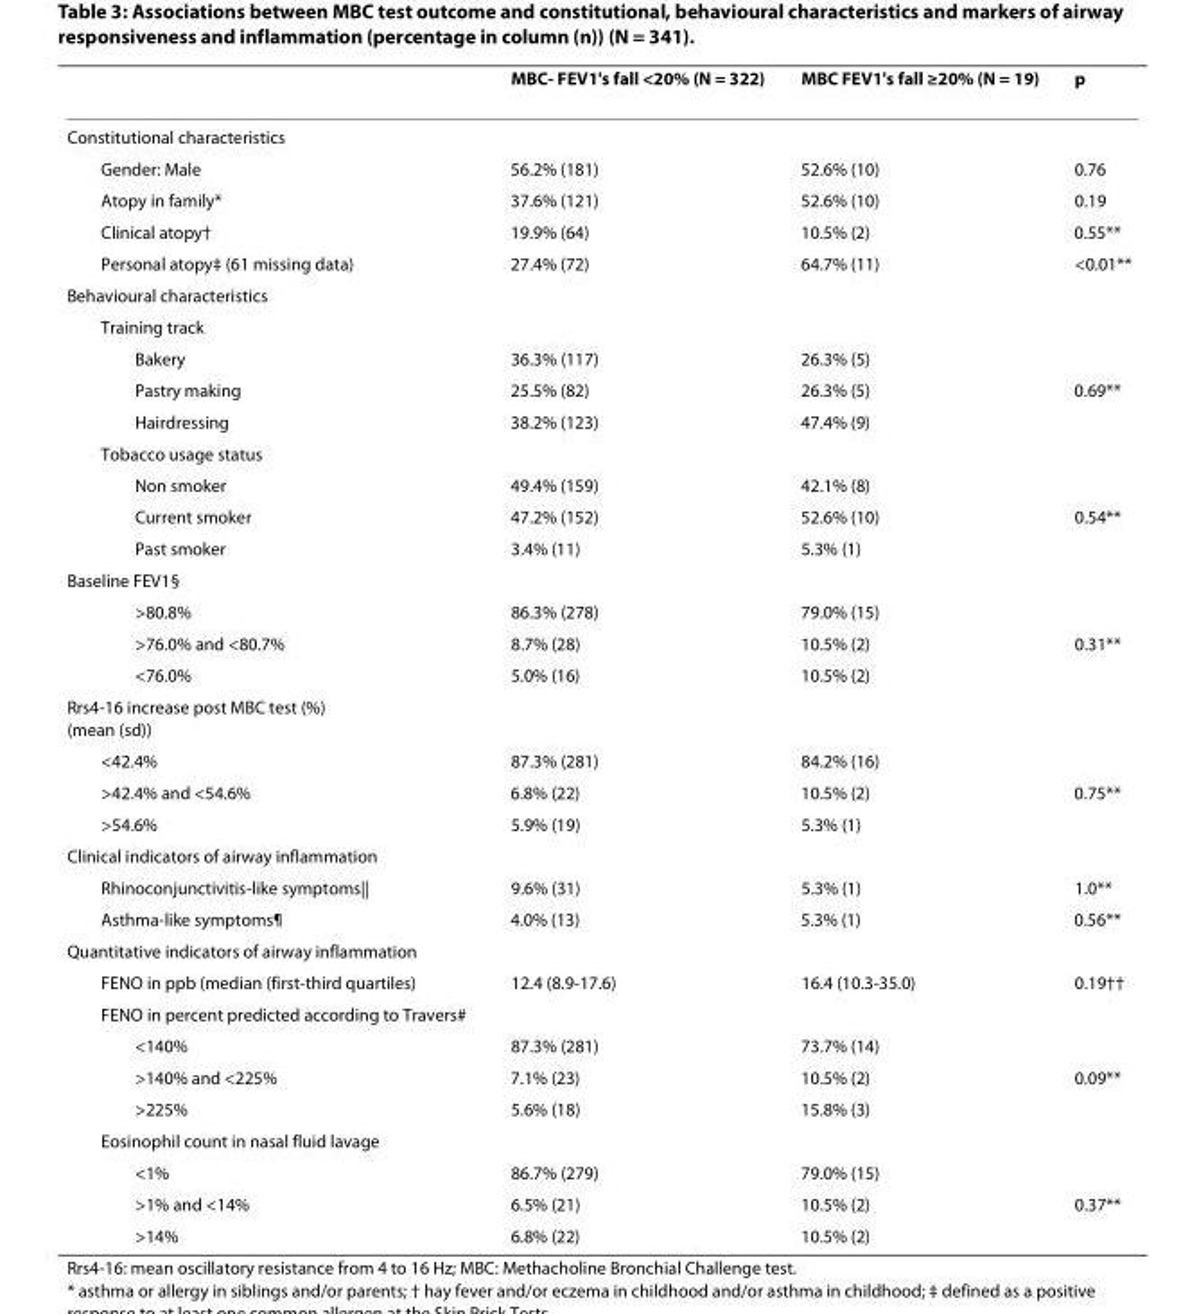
<table><thead><tr><td></td><td>MBC- FEV1&#x27;s fall &lt;20% (N = 322)</td><td>MBC FEV1&#x27;s fall ≥20% (N = 19)</td><td>p</td></tr></thead><tbody><tr><td colspan="4">Constitutional characteristics</td></tr><tr><td>Gender: Male</td><td>56.2% (181)</td><td>52.6% (10)</td><td>0.76</td></tr><tr><td>Atopy in family*</td><td>37.6% (121)</td><td>52.6% (10)</td><td>0.19</td></tr><tr><td>Clinical atopy†</td><td>19.9% (64)</td><td>10.5% (2)</td><td>0.55**</td></tr><tr><td>Personal atopy‡ (61 missing data)</td><td>27.4% (72)</td><td>64.7% (11)</td><td>&lt;0.01**</td></tr><tr><td colspan="4">Behavioural characteristics</td></tr><tr><td colspan="4">Training track</td></tr><tr><td>Bakery</td><td>36.3% (117)</td><td>26.3% (5)</td><td></td></tr><tr><td>Pastry making</td><td>25.5% (82)</td><td>26.3% (5)</td><td>0.69**</td></tr><tr><td>Hairdressing</td><td>38.2% (123)</td><td>47.4% (9)</td><td></td></tr><tr><td colspan="4">Tobacco usage status</td></tr><tr><td>Non smoker</td><td>49.4% (159)</td><td>42.1% (8)</td><td></td></tr><tr><td>Current smoker</td><td>47.2% (152)</td><td>52.6% (10)</td><td>0.54**</td></tr><tr><td>Past smoker</td><td>3.4% (11)</td><td>5.3% (1)</td><td></td></tr><tr><td colspan="4">Baseline FEV1§</td></tr><tr><td>&gt;80.8%</td><td>86.3% (278)</td><td>79.0% (15)</td><td></td></tr><tr><td>&gt;76.0% and &lt;80.7%</td><td>8.7% (28)</td><td>10.5% (2)</td><td>0.31**</td></tr><tr><td>&lt;76.0%</td><td>5.0% (16)</td><td>10.5% (2)</td><td></td></tr><tr><td colspan="4">Rrs4-16 increase post MBC test (%) (mean (sd))</td></tr><tr><td>&lt;42.4%</td><td>87.3% (281)</td><td>84.2% (16)</td><td></td></tr><tr><td>&gt;42.4% and &lt;54.6%</td><td>6.8% (22)</td><td>10.5% (2)</td><td>0.75**</td></tr><tr><td>&gt;54.6%</td><td>5.9% (19)</td><td>5.3% (1)</td><td></td></tr><tr><td colspan="4">Clinical indicators of airway inflammation</td></tr><tr><td>Rhinoconjunctivitis-like symptoms||</td><td>9.6% (31)</td><td>5.3% (1)</td><td>1.0**</td></tr><tr><td>Asthma-like symptoms¶</td><td>4.0% (13)</td><td>5.3% (1)</td><td>0.56**</td></tr><tr><td colspan="4">Quantitative indicators of airway inflammation</td></tr><tr><td>FENO in ppb (median (first-third quartiles)</td><td>12.4 (8.9-17.6)</td><td>16.4 (10.3-35.0)</td><td>0.19††</td></tr><tr><td colspan="4">FENO in percent predicted according to Travers#</td></tr><tr><td>&lt;140%</td><td>87.3% (281)</td><td>73.7% (14)</td><td></td></tr><tr><td>&gt;140% and &lt;225%</td><td>7.1% (23)</td><td>10.5% (2)</td><td>0.09**</td></tr><tr><td>&gt;225%</td><td>5.6% (18)</td><td>15.8% (3)</td><td></td></tr><tr><td colspan="4">Eosinophil count in nasal fluid lavage</td></tr><tr><td>&lt;1%</td><td>86.7% (279)</td><td>79.0% (15)</td><td></td></tr><tr><td>&gt;1% and &lt;14%</td><td>6.5% (21)</td><td>10.5% (2)</td><td>0.37**</td></tr><tr><td>&gt;14%</td><td>6.8% (22)</td><td>10.5% (2)</td><td></td></tr></tbody></table>